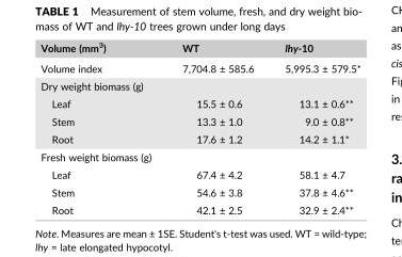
<table><thead><tr><td>Volume (mm<sup>3</sup>)</td><td>WT</td><td>lhy‐10</td></tr></thead><tbody><tr><td>Volume index</td><td>7,704.8 ± 585.6</td><td>5,995.3 ± 579.5*</td></tr><tr><td colspan="3">Dry weight biomass (g)</td></tr><tr><td>Leaf</td><td>15.5 ± 0.6</td><td>13.1 ± 0.6**</td></tr><tr><td>Stem</td><td>13.3 ± 1.0</td><td>9.0 ± 0.8**</td></tr><tr><td>Root</td><td>17.6 ± 1.2</td><td>14.2 ± 1.1*</td></tr><tr><td colspan="3">Fresh weight biomass (g)</td></tr><tr><td>Leaf</td><td>67.4 ± 4.2</td><td>58.1 ± 4.7</td></tr><tr><td>Stem</td><td>54.6 ± 3.8</td><td>37.8 ± 4.6**</td></tr><tr><td>Root</td><td>42.1 ± 2.5</td><td>32.9 ± 2.4**</td></tr></tbody></table>